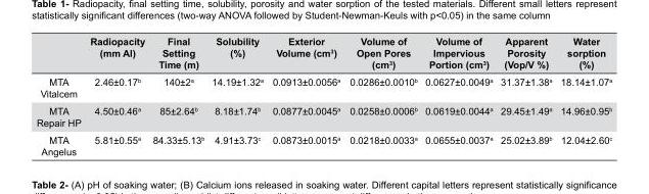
<table><thead><tr><td></td><td>Radiopacity (mm Al)</td><td>Final Setting Time (m)</td><td>Solubility (%)</td><td>Exterior Volume (cm<sup>3</sup>)</td><td>Volume of Open Pores (cm<sup>3</sup>)</td><td>Volume of Impervious Portion (cm<sup>3</sup>)</td><td>Apparent Porosity (Vop/V %)</td><td>Water sorption (%)</td></tr></thead><tbody><tr><td>MTA Vitalcem</td><td>2.46±0.17<sup>b</sup></td><td>140±2a</td><td>14.19±1.32a</td><td>0.0913±0.0056a</td><td>0.0286±0.0010<sup>b</sup></td><td>0.0627±0.0049a</td><td>31.37±1.38a</td><td>18.14±1.07a</td></tr><tr><td>MTA Repair HP</td><td>4.50±0.46a</td><td>85±2.64<sup>b</sup></td><td>8.18±1.74<sup>b</sup></td><td>0.0877±0.0045a</td><td>0.0258±0.0006<sup>b</sup></td><td>0.0619±0.0044a</td><td>29.45±1.49a</td><td>14.96±0.95<sup>b</sup></td></tr><tr><td>MTA Angelus</td><td>5.81±0.55a</td><td>84.33±5.13<sup>b</sup></td><td>4.91±3.73<sup>c</sup></td><td>0.0873±0.0015a</td><td>0.0218±0.0033a</td><td>0.0655±0.0037a</td><td>25.02±3.89<sup>b</sup></td><td>12.04±2.60<sup>c</sup></td></tr></tbody></table>